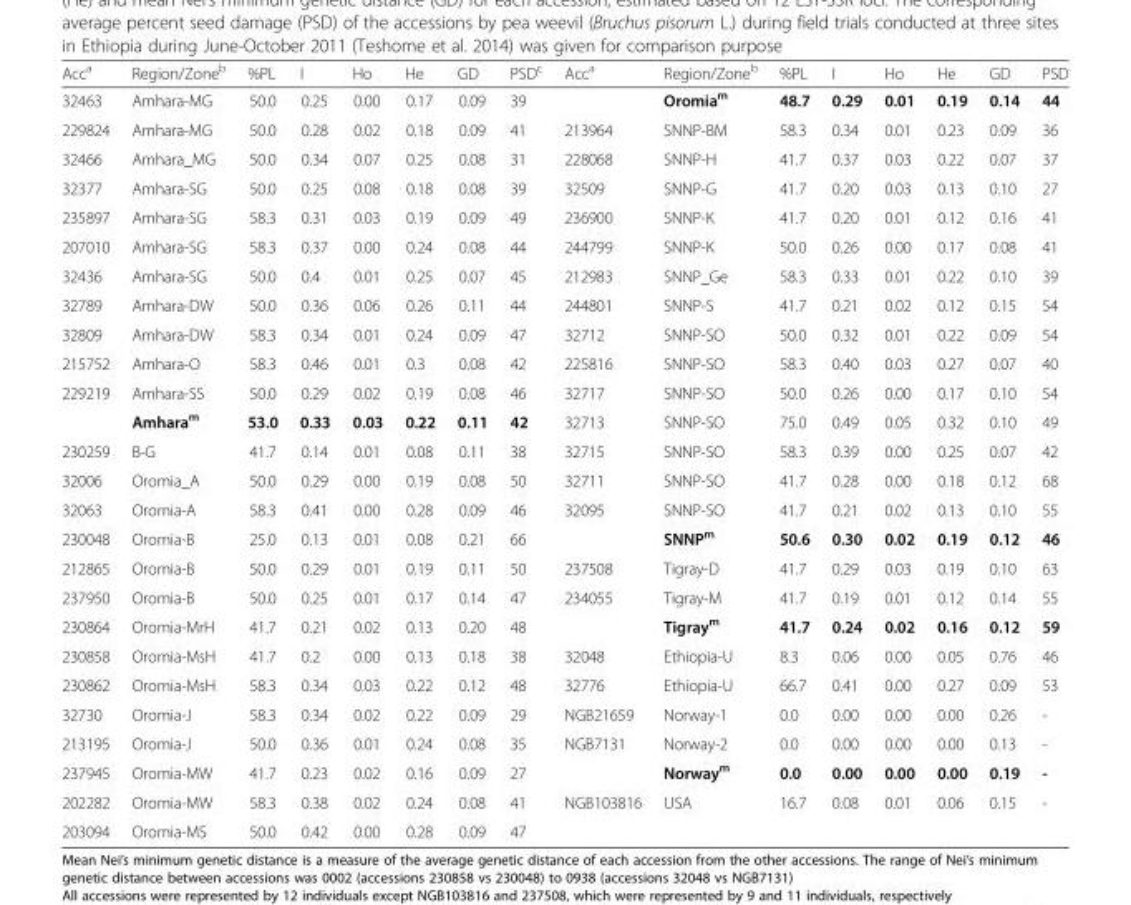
<table><thead><tr><td>Acc<sup>a</sup></td><td>Region/Zone<sup>b</sup></td><td>%PL</td><td>I</td><td>Ho</td><td>He</td><td>GD</td><td>PSD<sup>c</sup></td><td>Acc<sup>a</sup></td><td>Region/Zone<sup>b</sup></td><td>%PL</td><td>I</td><td>Ho</td><td>He</td><td>GD</td><td>PSD</td></tr></thead><tbody><tr><td>32463</td><td>Amhara-MG</td><td>50.0</td><td>0.25</td><td>0.00</td><td>0.17</td><td>0.09</td><td>39</td><td></td><td>Oromia<sup>m</sup></td><td>48.7</td><td>0.29</td><td>0.01</td><td>0.19</td><td>0.14</td><td>44</td></tr><tr><td>229824</td><td>Amhara-MG</td><td>50.0</td><td>0.28</td><td>0.02</td><td>0.18</td><td>0.09</td><td>41</td><td>213964</td><td>SNNP-BM</td><td>58.3</td><td>0.34</td><td>0.01</td><td>0.23</td><td>0.09</td><td>36</td></tr><tr><td>32466</td><td>Amhara_MG</td><td>50.0</td><td>0.34</td><td>0.07</td><td>0.25</td><td>0.08</td><td>31</td><td>228068</td><td>SNNP-H</td><td>41.7</td><td>0.37</td><td>0.03</td><td>0.22</td><td>0.07</td><td>37</td></tr><tr><td>32377</td><td>Amhara-SG</td><td>50.0</td><td>0.25</td><td>0.08</td><td>0.18</td><td>0.08</td><td>39</td><td>32509</td><td>SNNP-G</td><td>41.7</td><td>0.20</td><td>0.03</td><td>0.13</td><td>0.10</td><td>27</td></tr><tr><td>235897</td><td>Amhara-SG</td><td>58.3</td><td>0.31</td><td>0.03</td><td>0.19</td><td>0.09</td><td>49</td><td>236900</td><td>SNNP-K</td><td>41.7</td><td>0.20</td><td>0.01</td><td>0.12</td><td>0.16</td><td>41</td></tr><tr><td>207010</td><td>Amhara-SG</td><td>58.3</td><td>0.37</td><td>0.00</td><td>0.24</td><td>0.08</td><td>44</td><td>244799</td><td>SNNP-K</td><td>50.0</td><td>0.26</td><td>0.00</td><td>0.17</td><td>0.08</td><td>41</td></tr><tr><td>32436</td><td>Amhara-SG</td><td>50.0</td><td>0.4</td><td>0.01</td><td>0.25</td><td>0.07</td><td>45</td><td>212983</td><td>SNNP_Ge</td><td>58.3</td><td>0.33</td><td>0.01</td><td>0.22</td><td>0.10</td><td>39</td></tr><tr><td>32789</td><td>Amhara-DW</td><td>50.0</td><td>0.36</td><td>0.06</td><td>0.26</td><td>0.11</td><td>44</td><td>244801</td><td>SNNP-S</td><td>41.7</td><td>0.21</td><td>0.02</td><td>0.12</td><td>0.15</td><td>54</td></tr><tr><td>32809</td><td>Amhara-DW</td><td>58.3</td><td>0.34</td><td>0.01</td><td>0.24</td><td>0.09</td><td>47</td><td>32712</td><td>SNNP-SO</td><td>50.0</td><td>0.32</td><td>0.01</td><td>0.22</td><td>0.09</td><td>54</td></tr><tr><td>215752</td><td>Amhara-O</td><td>58.3</td><td>0.46</td><td>0.01</td><td>0.3</td><td>0.08</td><td>42</td><td>225816</td><td>SNNP-SO</td><td>58.3</td><td>0.40</td><td>0.03</td><td>0.27</td><td>0.07</td><td>40</td></tr><tr><td rowspan="2">229219</td><td>Amhara-SS</td><td>50.0</td><td>0.29</td><td>0.02</td><td>0.19</td><td>0.08</td><td>46</td><td>32717</td><td>SNNP-SO</td><td>50.0</td><td>0.26</td><td>0.00</td><td>0.17</td><td>0.10</td><td>54</td></tr><tr><td>Amhara<sup>m</sup></td><td>53.0</td><td>0.33</td><td>0.03</td><td>0.22</td><td>0.11</td><td>42</td><td>32713</td><td>SNNP-SO</td><td>75.0</td><td>0.49</td><td>0.05</td><td>0.32</td><td>0.10</td><td>49</td></tr><tr><td>230259</td><td>B-G</td><td>41.7</td><td>0.14</td><td>0.01</td><td>0.08</td><td>0.11</td><td>38</td><td>32715</td><td>SNNP-SO</td><td>58.3</td><td>0.39</td><td>0.00</td><td>0.25</td><td>0.07</td><td>42</td></tr><tr><td>32006</td><td>Oromia_A</td><td>50.0</td><td>0.29</td><td>0.00</td><td>0.19</td><td>0.08</td><td>50</td><td>32711</td><td>SNNP-SO</td><td>41.7</td><td>0.28</td><td>0.00</td><td>0.18</td><td>0.12</td><td>68</td></tr><tr><td>32063</td><td>Oromia-A</td><td>58.3</td><td>0.41</td><td>0.00</td><td>0.28</td><td>0.09</td><td>46</td><td>32095</td><td>SNNP-SO</td><td>41.7</td><td>0.21</td><td>0.02</td><td>0.13</td><td>0.10</td><td>55</td></tr><tr><td>230048</td><td>Oromia-B</td><td>25.0</td><td>0.13</td><td>0.01</td><td>0.08</td><td>0.21</td><td>66</td><td></td><td>SNNP<sup>m</sup></td><td>50.6</td><td>0.30</td><td>0.02</td><td>0.19</td><td>0.12</td><td>46</td></tr><tr><td>212865</td><td>Oromia-B</td><td>50.0</td><td>0.29</td><td>0.01</td><td>0.19</td><td>0.11</td><td>50</td><td>237508</td><td>Tigray-D</td><td>41.7</td><td>0.29</td><td>0.03</td><td>0.19</td><td>0.10</td><td>63</td></tr><tr><td>237950</td><td>Oromia-B</td><td>50.0</td><td>0.25</td><td>0.01</td><td>0.17</td><td>0.14</td><td>47</td><td>234055</td><td>Tigray-M</td><td>41.7</td><td>0.19</td><td>0.01</td><td>0.12</td><td>0.14</td><td>55</td></tr><tr><td>230864</td><td>Oromia-MrH</td><td>41.7</td><td>0.21</td><td>0.02</td><td>0.13</td><td>0.20</td><td>48</td><td></td><td>Tigray<sup>m</sup></td><td>41.7</td><td>0.24</td><td>0.02</td><td>0.16</td><td>0.12</td><td>59</td></tr><tr><td>230858</td><td>Oromia-MsH</td><td>41.7</td><td>0.2</td><td>0.00</td><td>0.13</td><td>0.18</td><td>38</td><td>32048</td><td>Ethiopia-U</td><td>8.3</td><td>0.06</td><td>0.00</td><td>0.05</td><td>0.76</td><td>46</td></tr><tr><td>230862</td><td>Oromia-MsH</td><td>58.3</td><td>0.34</td><td>0.03</td><td>0.22</td><td>0.12</td><td>48</td><td>32776</td><td>Ethiopia-U</td><td>66.7</td><td>0.41</td><td>0.00</td><td>0.27</td><td>0.09</td><td>53</td></tr><tr><td>32730</td><td>Oromia-J</td><td>58.3</td><td>0.34</td><td>0.02</td><td>0.22</td><td>0.09</td><td>29</td><td>NGB21659</td><td>Norway-1</td><td>0.0</td><td>0.00</td><td>0.00</td><td>0.00</td><td>0.26</td><td>-</td></tr><tr><td>213195</td><td>Oromia-J</td><td>50.0</td><td>0.36</td><td>0.01</td><td>0.24</td><td>0.08</td><td>35</td><td>NGB7131</td><td>Norway-2</td><td>0.0</td><td>0.00</td><td>0.00</td><td>0.00</td><td>0.13</td><td>-</td></tr><tr><td>237945</td><td>Oromia-MW</td><td>41.7</td><td>0.23</td><td>0.02</td><td>0.16</td><td>0.09</td><td>27</td><td></td><td>Norway<sup>m</sup></td><td>0.0</td><td>0.00</td><td>0.00</td><td>0.00</td><td>0.19</td><td>-</td></tr><tr><td>202282</td><td>Oromia-MW</td><td>58.3</td><td>0.38</td><td>0.02</td><td>0.24</td><td>0.08</td><td>41</td><td>NGB103816</td><td>USA</td><td>16.7</td><td>0.08</td><td>0.01</td><td>0.06</td><td>0.15</td><td>-</td></tr><tr><td>203094</td><td>Oromia-MS</td><td>50.0</td><td>0.42</td><td>0.00</td><td>0.28</td><td>0.09</td><td>47</td><td></td><td></td><td></td><td></td><td></td><td></td><td></td><td></td></tr></tbody></table>